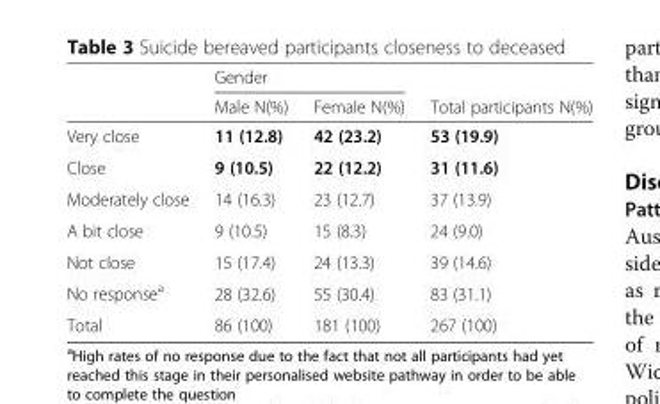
<table><thead><tr><td rowspan="2"></td><td colspan="2">Gender</td><td rowspan="2">Total participants N(%)</td></tr><tr><td>Male N(%)</td><td>Female N(%)</td></tr></thead><tbody><tr><td>Very close</td><td>11 (12.8)</td><td>42 (23.2)</td><td>53 (19.9)</td></tr><tr><td>Close</td><td>9 (10.5)</td><td>22 (12.2)</td><td>31 (11.6)</td></tr><tr><td>Moderately close</td><td>14 (16.3)</td><td>23 (12.7)</td><td>37 (13.9)</td></tr><tr><td>A bit close</td><td>9 (10.5)</td><td>15 (8.3)</td><td>24 (9.0)</td></tr><tr><td>Not close</td><td>15 (17.4)</td><td>24 (13.3)</td><td>39 (14.6)</td></tr><tr><td>No response<sup>a</sup></td><td>28 (32.6)</td><td>55 (30.4)</td><td>83 (31.1)</td></tr><tr><td>Total</td><td>86 (100)</td><td>181 (100)</td><td>267 (100)</td></tr></tbody></table>